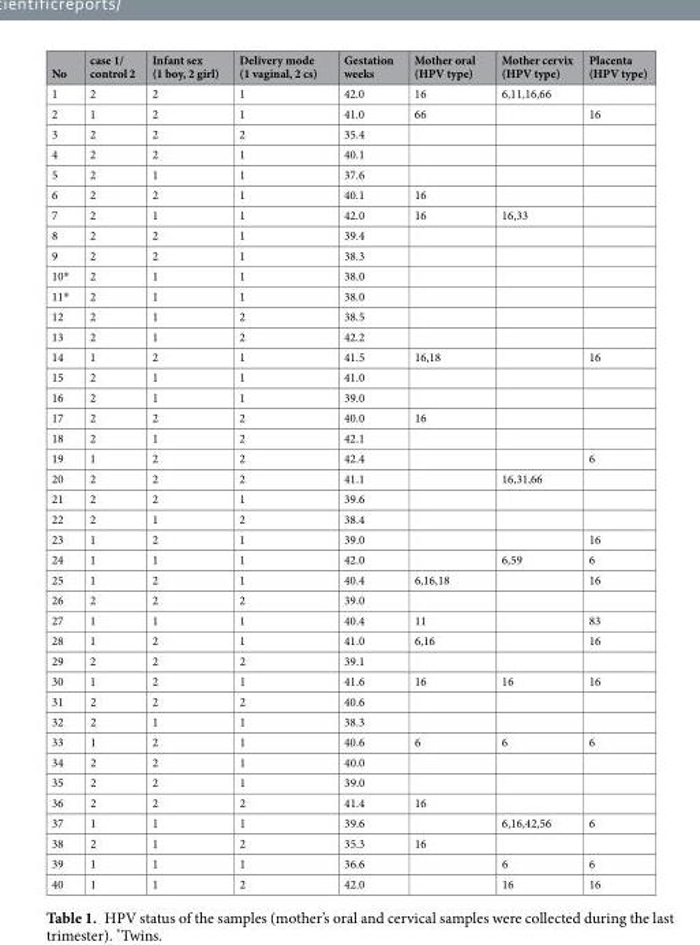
<table><thead><tr><td>No</td><td>case 1/ control 2</td><td>Infant sex (1 boy, 2 girl)</td><td>Delivery mode (1 vaginal, 2 cs)</td><td>Gestation weeks</td><td>Mother oral (HPV type)</td><td>Mother cervix (HPV type)</td><td>Placenta (HPV type)</td></tr></thead><tbody><tr><td>1</td><td>2</td><td>2</td><td>1</td><td>42.0</td><td>16</td><td>6,11,16,66</td><td></td></tr><tr><td>2</td><td>1</td><td>2</td><td>1</td><td>41.0</td><td>66</td><td></td><td>16</td></tr><tr><td>3</td><td>2</td><td>2</td><td>2</td><td>35.4</td><td></td><td></td><td></td></tr><tr><td>4</td><td>2</td><td>2</td><td>1</td><td>40.1</td><td></td><td></td><td></td></tr><tr><td>5</td><td>2</td><td>1</td><td>1</td><td>37.6</td><td></td><td></td><td></td></tr><tr><td>6</td><td>2</td><td>2</td><td>1</td><td>40.1</td><td>16</td><td></td><td></td></tr><tr><td>7</td><td>2</td><td>1</td><td>1</td><td>42.0</td><td>16</td><td>16,33</td><td></td></tr><tr><td>8</td><td>2</td><td>2</td><td>1</td><td>39.4</td><td></td><td></td><td></td></tr><tr><td>9</td><td>2</td><td>2</td><td>1</td><td>38.3</td><td></td><td></td><td></td></tr><tr><td>10*</td><td>2</td><td>1</td><td>1</td><td>38.0</td><td></td><td></td><td></td></tr><tr><td>11*</td><td>2</td><td>1</td><td>1</td><td>38.0</td><td></td><td></td><td></td></tr><tr><td>12</td><td>2</td><td>1</td><td>2</td><td>38.5</td><td></td><td></td><td></td></tr><tr><td>13</td><td>2</td><td>1</td><td>2</td><td>42.2</td><td></td><td></td><td></td></tr><tr><td>14</td><td>1</td><td>2</td><td>1</td><td>41.5</td><td>16,18</td><td></td><td>16</td></tr><tr><td>15</td><td>2</td><td>1</td><td>1</td><td>41.0</td><td></td><td></td><td></td></tr><tr><td>16</td><td>2</td><td>1</td><td>1</td><td>39.0</td><td></td><td></td><td></td></tr><tr><td>17</td><td>2</td><td>2</td><td>2</td><td>40.0</td><td>16</td><td></td><td></td></tr><tr><td>18</td><td>2</td><td>1</td><td>2</td><td>42.1</td><td></td><td></td><td></td></tr><tr><td>19</td><td>1</td><td>2</td><td>2</td><td>42.4</td><td></td><td></td><td>6</td></tr><tr><td>20</td><td>2</td><td>2</td><td>2</td><td>41.1</td><td></td><td>16,31,66</td><td></td></tr><tr><td>21</td><td>2</td><td>2</td><td>1</td><td>39.6</td><td></td><td></td><td></td></tr><tr><td>22</td><td>2</td><td>1</td><td>2</td><td>38.4</td><td></td><td></td><td></td></tr><tr><td>23</td><td>1</td><td>2</td><td>1</td><td>39.0</td><td></td><td></td><td>16</td></tr><tr><td>24</td><td>1</td><td>1</td><td>1</td><td>42.0</td><td></td><td>6,59</td><td>6</td></tr><tr><td>25</td><td>1</td><td>2</td><td>1</td><td>40.4</td><td>6,16,18</td><td></td><td>16</td></tr><tr><td>26</td><td>2</td><td>2</td><td>2</td><td>39.0</td><td></td><td></td><td></td></tr><tr><td>27</td><td>1</td><td>1</td><td>1</td><td>40.4</td><td>11</td><td></td><td>83</td></tr><tr><td>28</td><td>1</td><td>2</td><td>1</td><td>41.0</td><td>6,16</td><td></td><td>16</td></tr><tr><td>29</td><td>2</td><td>2</td><td>2</td><td>39.1</td><td></td><td></td><td></td></tr><tr><td>30</td><td>1</td><td>2</td><td>1</td><td>41.6</td><td>16</td><td>16</td><td>16</td></tr><tr><td>31</td><td>2</td><td>2</td><td>2</td><td>40.6</td><td></td><td></td><td></td></tr><tr><td>32</td><td>2</td><td>1</td><td>1</td><td>38.3</td><td></td><td></td><td></td></tr><tr><td>33</td><td>1</td><td>2</td><td>1</td><td>40.6</td><td>6</td><td>6</td><td>6</td></tr><tr><td>34</td><td>2</td><td>2</td><td>1</td><td>40.0</td><td></td><td></td><td></td></tr><tr><td>35</td><td>2</td><td>2</td><td>1</td><td>39.0</td><td></td><td></td><td></td></tr><tr><td>36</td><td>2</td><td>2</td><td>2</td><td>41.4</td><td>16</td><td></td><td></td></tr><tr><td>37</td><td>1</td><td>1</td><td>1</td><td>39.6</td><td></td><td>6,16,42,56</td><td>6</td></tr><tr><td>38</td><td>2</td><td>1</td><td>2</td><td>35.3</td><td>16</td><td></td><td></td></tr><tr><td>39</td><td>1</td><td>1</td><td>1</td><td>36.6</td><td></td><td>6</td><td>6</td></tr><tr><td>40</td><td>1</td><td>1</td><td>2</td><td>42.0</td><td></td><td>16</td><td>16</td></tr></tbody></table>